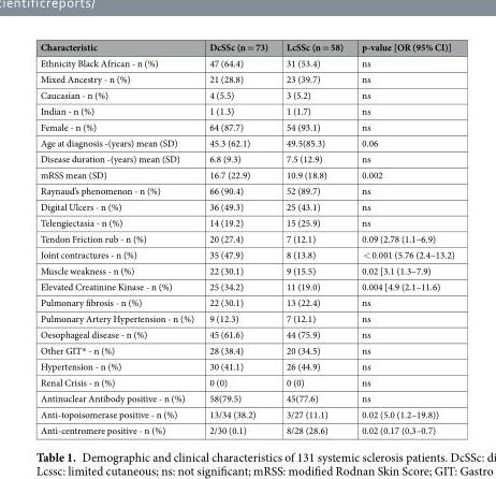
<table><thead><tr><td>Characteristic</td><td>DcSSc (n = 73)</td><td>LcSSc (n = 58)</td><td>p-value [OR (95% CI)]</td></tr></thead><tbody><tr><td>Ethnicity Black African - n (%)</td><td>47 (64.4)</td><td>31 (53.4)</td><td>ns</td></tr><tr><td>Mixed Ancestry - n (%)</td><td>21 (28.8)</td><td>23 (39.7)</td><td>ns</td></tr><tr><td>Caucasian - n (%)</td><td>4 (5.5)</td><td>3 (5.2)</td><td>ns</td></tr><tr><td>Indian - n (%)</td><td>1 (1.3)</td><td>1 (1.7)</td><td>ns</td></tr><tr><td>Female - n (%)</td><td>64 (87.7)</td><td>54 (93.1)</td><td>ns</td></tr><tr><td>Age at diagnosis -(years) mean (SD)</td><td>45.3 (62.1)</td><td>49.5(85.3)</td><td>0.06</td></tr><tr><td>Disease duration -(years) mean (SD)</td><td>6.8 (9.3)</td><td>7.5 (12.9)</td><td>ns</td></tr><tr><td>mRSS mean (SD)</td><td>16.7 (22.9)</td><td>10.9 (18.8)</td><td>0.002</td></tr><tr><td>Raynaud’s phenomenon - n (%)</td><td>66 (90.4)</td><td>52 (89.7)</td><td>ns</td></tr><tr><td>Digital Ulcers - n (%)</td><td>36 (49.3)</td><td>25 (43.1)</td><td>ns</td></tr><tr><td>Telengiectasia - n (%)</td><td>14 (19.2)</td><td>15 (25.9)</td><td>ns</td></tr><tr><td>Tendon Friction rub - n (%)</td><td>20 (27.4)</td><td>7 (12.1)</td><td>0.09 (2.78 (1.1–6.9)</td></tr><tr><td>Joint contractures - n (%)</td><td>35 (47.9)</td><td>8 (13.8)</td><td>&lt; 0.001 (5.76 (2.4–13.2)</td></tr><tr><td>Muscle weakness - n (%)</td><td>22 (30.1)</td><td>9 (15.5)</td><td>0.02 [3.1 (1.3–7.9)</td></tr><tr><td>Elevated Creatinine Kinase - n (%)</td><td>25 (34.2)</td><td>11 (19.0)</td><td>0.004 [4.9 (2.1–11.6)</td></tr><tr><td>Pulmonary fibrosis - n (%)</td><td>22 (30.1)</td><td>13 (22.4)</td><td>ns</td></tr><tr><td>Pulmonary Artery Hypertension - n (%)</td><td>9 (12.3)</td><td>7 (12.1)</td><td>ns</td></tr><tr><td>Oesophageal disease - n (%)</td><td>45 (61.6)</td><td>44 (75.9)</td><td>ns</td></tr><tr><td>Other GIT* - n (%)</td><td>28 (38.4)</td><td>20 (34.5)</td><td>ns</td></tr><tr><td>Hypertension - n (%)</td><td>30 (41.1)</td><td>26 (44.9)</td><td>ns</td></tr><tr><td>Renal Crisis - n (%)</td><td>0 (0)</td><td>0 (0)</td><td>ns</td></tr><tr><td>Antinuclear Antibody positive - n (%)</td><td>58(79.5)</td><td>45(77.6)</td><td>ns</td></tr><tr><td>Anti-topoisomerase positive - n (%)</td><td>13/34 (38.2)</td><td>3/27 (11.1)</td><td>0.02 (5.0 (1.2–19.8))</td></tr><tr><td>Anti-centromere positive - n (%)</td><td>2/30 (0.1)</td><td>8/28 (28.6)</td><td>0.02 (0.17 (0.3–0.7)</td></tr></tbody></table>